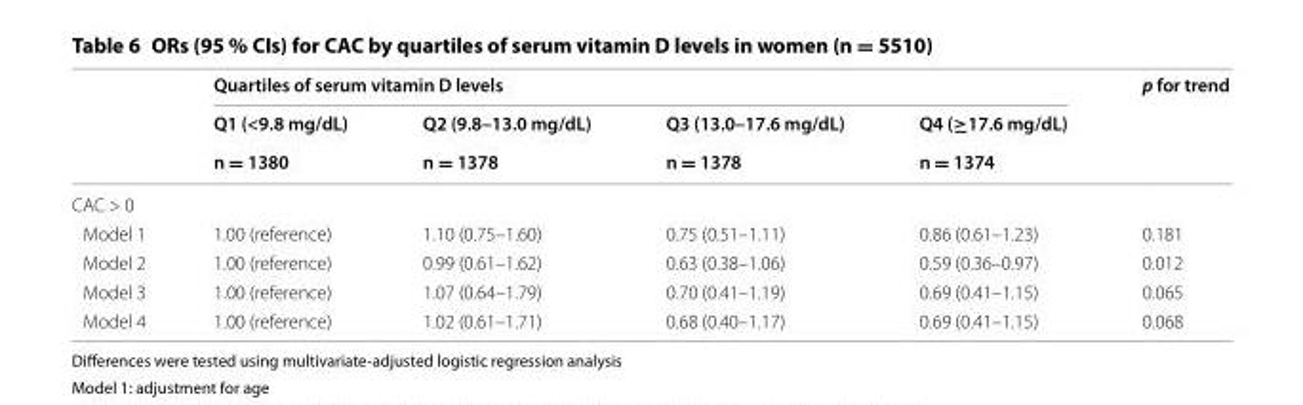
<table><thead><tr><td rowspan="3"></td><td colspan="4">Quartiles of serum vitamin D levels</td><td rowspan="3">p for trend</td></tr><tr><td rowspan="2">Q1 (&lt;9.8 mg/dL) n = 1380</td><td rowspan="2">Q2 (9.8–13.0 mg/dL) n = 1378</td><td rowspan="2">Q3 (13.0–17.6 mg/dL) n = 1378</td><td rowspan="2">Q4 (≥17.6 mg/dL) n = 1374</td></tr><tr></tr></thead><tbody><tr><td colspan="6">CAC &gt; 0</td></tr><tr><td>Model 1</td><td>1.00 (reference)</td><td>1.10 (0.75–1.60)</td><td>0.75 (0.51–1.11)</td><td>0.86 (0.61–1.23)</td><td>0.181</td></tr><tr><td>Model 2</td><td>1.00 (reference)</td><td>0.99 (0.61–1.62)</td><td>0.63 (0.38–1.06)</td><td>0.59 (0.36–0.97)</td><td>0.012</td></tr><tr><td>Model 3</td><td>1.00 (reference)</td><td>1.07 (0.64–1.79)</td><td>0.70 (0.41–1.19)</td><td>0.69 (0.41–1.15)</td><td>0.065</td></tr><tr><td>Model 4</td><td>1.00 (reference)</td><td>1.02 (0.61–1.71)</td><td>0.68 (0.40–1.17)</td><td>0.69 (0.41–1.15)</td><td>0.068</td></tr></tbody></table>